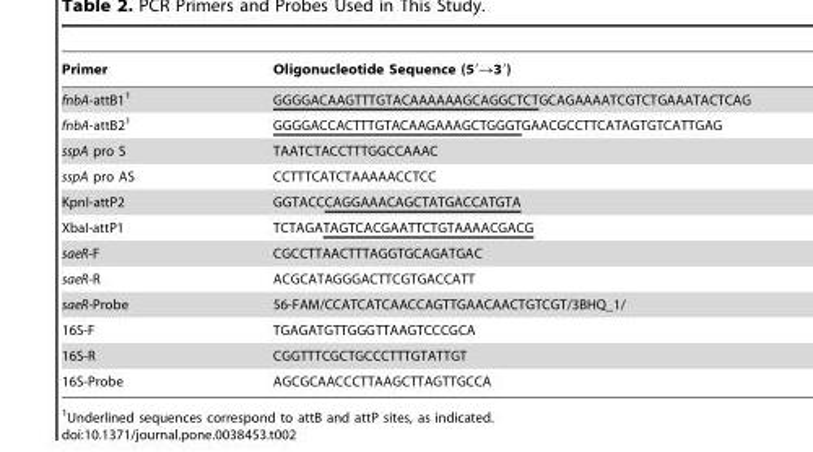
<table><thead><tr><td>Primer</td><td>Oligonucleotide Sequence (5′→3′)</td></tr></thead><tbody><tr><td>fnbA-attB1<sup>1</sup></td><td>GGGGACAAGTTTGTACAAAAAAGCAGGCTCTGCAGAAAATCGTCTGAAATACTCAG</td></tr><tr><td>fnbA-attB2<sup>1</sup></td><td>GGGGACCACTTTGTACAAGAAAGCTGGGTGAACGCCTTCATAGTGTCATTGAG</td></tr><tr><td>sspA pro S</td><td>TAATCTACCTTTGGCCAAAC</td></tr><tr><td>sspA pro AS</td><td>CCTTTCATCTAAAAACCTCC</td></tr><tr><td>KpnI-attP2</td><td>GGTACCCAGGAAACAGCTATGACCATGTA</td></tr><tr><td>XbaI-attP1</td><td>TCTAGATAGTCACGAATTCTGTAAAACGACG</td></tr><tr><td>saeR-F</td><td>CGCCTTAACTTTAGGTGCAGATGAC</td></tr><tr><td>saeR-R</td><td>ACGCATAGGGACTTCGTGACCATT</td></tr><tr><td>saeR-Probe</td><td>56-FAM/CCATCATCAACCAGTTGAACAACTGTCGT/3BHQ_1/</td></tr><tr><td>16S-F</td><td>TGAGATGTTGGGTTAAGTCCCGCA</td></tr><tr><td>16S-R</td><td>CGGTTTCGCTGCCCTTTGTATTGT</td></tr><tr><td>16S-Probe</td><td>AGCGCAACCCTTAAGCTTAGTTGCCA</td></tr></tbody></table>